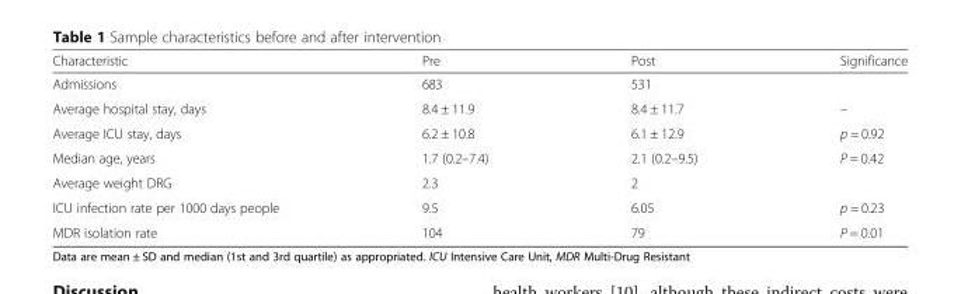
<table><thead><tr><td>Characteristic</td><td>Pre</td><td>Post</td><td>Significance</td></tr></thead><tbody><tr><td>Admissions</td><td>683</td><td>531</td><td></td></tr><tr><td>Average hospital stay, days</td><td>8.4 ± 11.9</td><td>8.4 ± 11.7</td><td>–</td></tr><tr><td>Average ICU stay, days</td><td>6.2 ± 10.8</td><td>6.1 ± 12.9</td><td>p = 0.92</td></tr><tr><td>Median age, years</td><td>1.7 (0.2–7.4)</td><td>2.1 (0.2–9.5)</td><td>P = 0.42</td></tr><tr><td>Average weight DRG</td><td>2.3</td><td>2</td><td></td></tr><tr><td>ICU infection rate per 1000 days people</td><td>9.5</td><td>6.05</td><td>p = 0.23</td></tr><tr><td>MDR isolation rate</td><td>104</td><td>79</td><td>P = 0.01</td></tr></tbody></table>